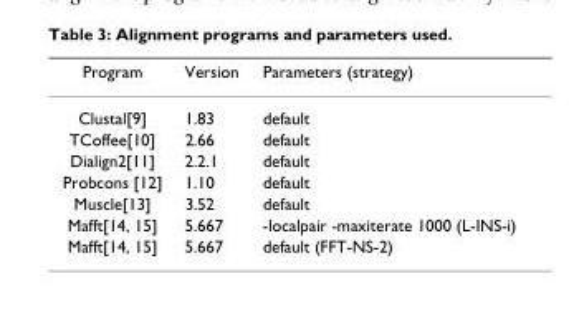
<table><thead><tr><td>Program</td><td>Version</td><td>Parameters (strategy)</td></tr></thead><tbody><tr><td>Clustal[9]</td><td>1.83</td><td>default</td></tr><tr><td>TCoffee[10]</td><td>2.66</td><td>default</td></tr><tr><td>Dialign2[11]</td><td>2.2.1</td><td>default</td></tr><tr><td>Probcons [12]</td><td>1.10</td><td>default</td></tr><tr><td>Muscle[13]</td><td>3.52</td><td>default</td></tr><tr><td>Mafft[14, 15]</td><td>5.667</td><td>-localpair -maxiterate 1000 (L-INS-i)</td></tr><tr><td>Mafft[14, 15]</td><td>5.667</td><td>default (FFT-NS-2)</td></tr></tbody></table>